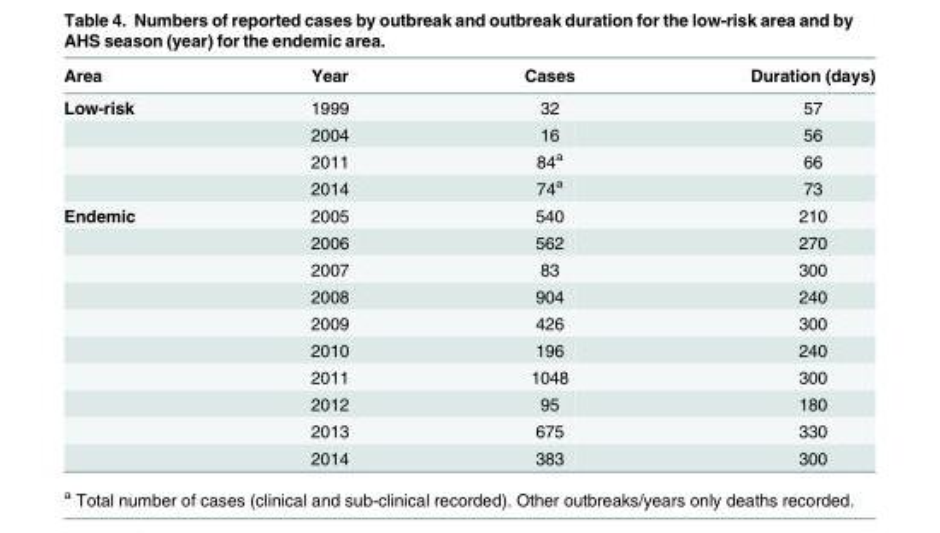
<table><thead><tr><td>Area</td><td>Year</td><td>Cases</td><td>Duration (days)</td></tr></thead><tbody><tr><td rowspan="4">Low-risk</td><td>1999</td><td>32</td><td>57</td></tr><tr><td>2004</td><td>16</td><td>56</td></tr><tr><td>2011</td><td>84<sup>a</sup></td><td>66</td></tr><tr><td>2014</td><td>74<sup>a</sup></td><td>73</td></tr><tr><td rowspan="10">Endemic</td><td>2005</td><td>540</td><td>210</td></tr><tr><td>2006</td><td>562</td><td>270</td></tr><tr><td>2007</td><td>83</td><td>300</td></tr><tr><td>2008</td><td>904</td><td>240</td></tr><tr><td>2009</td><td>426</td><td>300</td></tr><tr><td>2010</td><td>196</td><td>240</td></tr><tr><td>2011</td><td>1048</td><td>300</td></tr><tr><td>2012</td><td>95</td><td>180</td></tr><tr><td>2013</td><td>675</td><td>330</td></tr><tr><td>2014</td><td>383</td><td>300</td></tr></tbody></table>